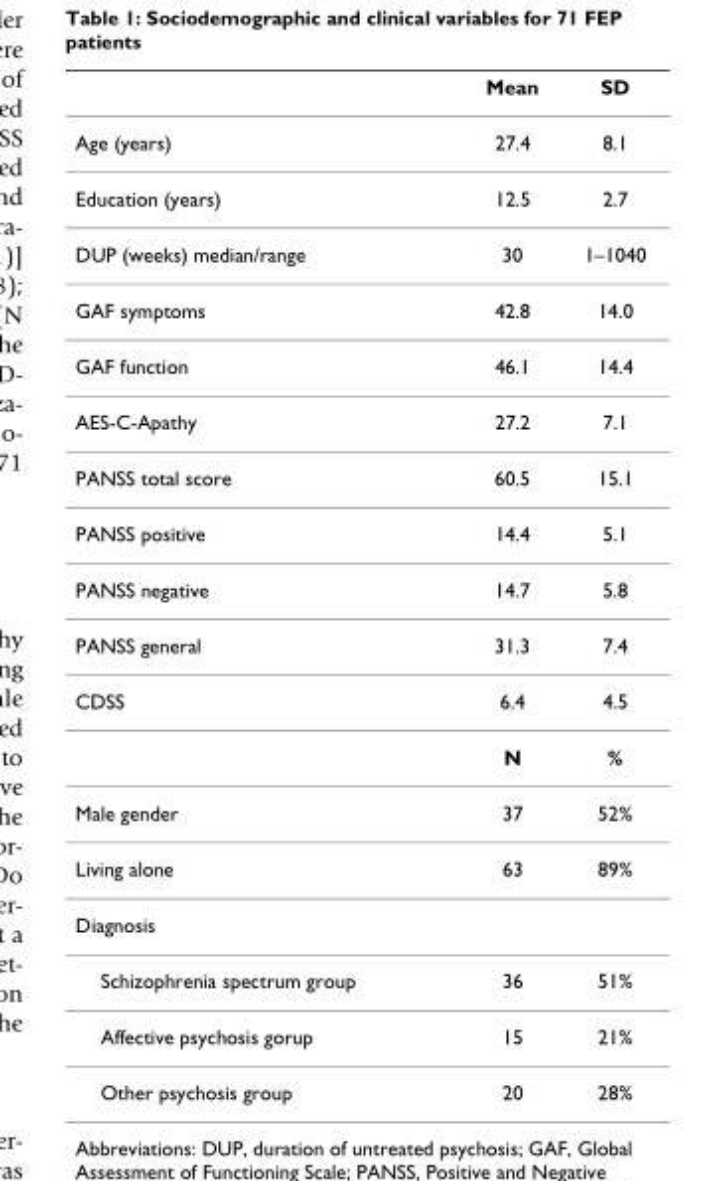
<table><thead><tr><td></td><td>Mean</td><td>SD</td></tr></thead><tbody><tr><td>Age (years)</td><td>27.4</td><td>8.1</td></tr><tr><td>Education (years)</td><td>12.5</td><td>2.7</td></tr><tr><td>DUP (weeks) median/range</td><td>30</td><td>1–1040</td></tr><tr><td>GAF symptoms</td><td>42.8</td><td>14.0</td></tr><tr><td>GAF function</td><td>46.1</td><td>14.4</td></tr><tr><td>AES-C-Apathy</td><td>27.2</td><td>7.1</td></tr><tr><td>PANSS total score</td><td>60.5</td><td>15.1</td></tr><tr><td>PANSS positive</td><td>14.4</td><td>5.1</td></tr><tr><td>PANSS negative</td><td>14.7</td><td>5.8</td></tr><tr><td>PANSS general</td><td>31.3</td><td>7.4</td></tr><tr><td rowspan="2">CDSS</td><td>6.4</td><td>4.5</td></tr><tr><td>N</td><td>%</td></tr><tr><td>Male gender</td><td>37</td><td>52%</td></tr><tr><td>Living alone</td><td>63</td><td>89%</td></tr><tr><td colspan="3">Diagnosis</td></tr><tr><td>Schizophrenia spectrum group</td><td>36</td><td>51%</td></tr><tr><td>Affective psychosis gorup</td><td>15</td><td>21%</td></tr><tr><td>Other psychosis group</td><td>20</td><td>28%</td></tr></tbody></table>